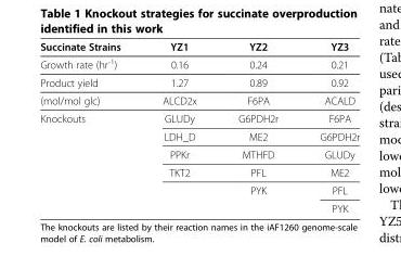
<table><thead><tr><td>Succinate Strains</td><td>YZ1</td><td>YZ2</td><td>YZ3</td></tr></thead><tbody><tr><td>Growth rate (hr<sup>-1</sup>)</td><td>0.16</td><td>0.24</td><td>0.21</td></tr><tr><td>Product yield</td><td>1.27</td><td>0.89</td><td>0.92</td></tr><tr><td>(mol/mol glc)</td><td>ALCD2x</td><td>F6PA</td><td>ACALD</td></tr><tr><td rowspan="6">Knockouts</td><td>GLUDy</td><td>G6PDH2r</td><td>F6PA</td></tr><tr><td>LDH_D</td><td>ME2</td><td>G6PDH2r</td></tr><tr><td>PPKr</td><td>MTHFD</td><td>GLUDy</td></tr><tr><td>TKT2</td><td>PFL</td><td>ME2</td></tr><tr><td></td><td>PYK</td><td>PFL</td></tr><tr><td></td><td></td><td>PYK</td></tr></tbody></table>